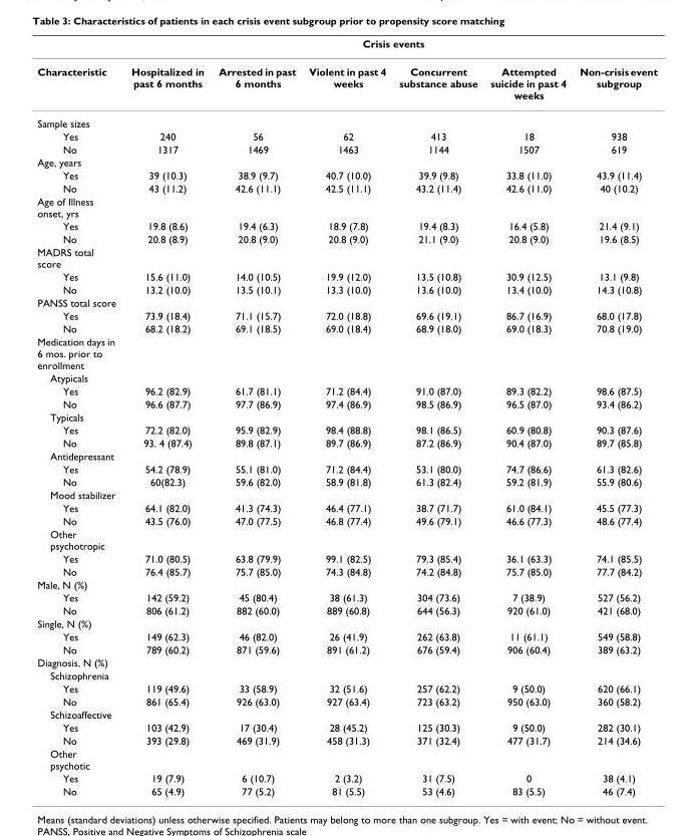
<table><thead><tr><td rowspan="2">Characteristic</td><td colspan="6">Crisis events</td></tr><tr><td>Hospitalized in past 6 months</td><td>Arrested in past 6 months</td><td>Violent in past 4 weeks</td><td>Concurrent substance abuse</td><td>Attempted suicide in past 4 weeks</td><td>Non-crisis event subgroup</td></tr></thead><tbody><tr><td colspan="7">Sample sizes</td></tr><tr><td>Yes</td><td>240</td><td>56</td><td>62</td><td>413</td><td>18</td><td>938</td></tr><tr><td>No</td><td>1317</td><td>1469</td><td>1463</td><td>1144</td><td>1507</td><td>619</td></tr><tr><td colspan="7">Age, years</td></tr><tr><td>Yes</td><td>39 (10.3)</td><td>38.9 (9.7)</td><td>40.7 (10.0)</td><td>39.9 (9.8)</td><td>33.8 (11.0)</td><td>43.9 (11.4)</td></tr><tr><td>No</td><td>43 (11.2)</td><td>42.6 (11.1)</td><td>42.5 (11.1)</td><td>43.2 (11.4)</td><td>42.6 (11.0)</td><td>40 (10.2)</td></tr><tr><td colspan="7">Age of Illness onset, yrs</td></tr><tr><td>Yes</td><td>19.8 (8.6)</td><td>19.4 (6.3)</td><td>18.9 (7.8)</td><td>19.4 (8.3)</td><td>16.4 (5.8)</td><td>21.4 (9.1)</td></tr><tr><td>No</td><td>20.8 (8.9)</td><td>20.8 (9.0)</td><td>20.8 (9.0)</td><td>21.1 (9.0)</td><td>20.8 (9.0)</td><td>19.6 (8.5)</td></tr><tr><td colspan="7">MADRS total score</td></tr><tr><td>Yes</td><td>15.6 (11.0)</td><td>14.0 (10.5)</td><td>19.9 (12.0)</td><td>13.5 (10.8)</td><td>30.9 (12.5)</td><td>13.1 (9.8)</td></tr><tr><td>No</td><td>13.2 (10.0)</td><td>13.5 (10.1)</td><td>13.3 (10.0)</td><td>13.6 (10.0)</td><td>13.4 (10.0)</td><td>14.3 (10.8)</td></tr><tr><td colspan="7">PANSS total score</td></tr><tr><td>Yes</td><td>73.9 (18.4)</td><td>71.1 (15.7)</td><td>72.0 (18.8)</td><td>69.6 (19.1)</td><td>86.7 (16.9)</td><td>68.0 (17.8)</td></tr><tr><td>No</td><td>68.2 (18.2)</td><td>69.1 (18.5)</td><td>69.0 (18.4)</td><td>68.9 (18.0)</td><td>69.0 (18.3)</td><td>70.8 (19.0)</td></tr><tr><td colspan="7">Medication days in 6 mos. prior to enrollment</td></tr><tr><td colspan="7">Atypicals</td></tr><tr><td>Yes</td><td>96.2 (82.9)</td><td>61.7 (81.1)</td><td>71.2 (84.4)</td><td>91.0 (87.0)</td><td>89.3 (82.2)</td><td>98.6 (87.5)</td></tr><tr><td>No</td><td>96.6 (87.7)</td><td>97.7 (86.9)</td><td>97.4 (86.9)</td><td>98.5 (86.9)</td><td>96.5 (87.0)</td><td>93.4 (86.2)</td></tr><tr><td colspan="7">Typicals</td></tr><tr><td>Yes</td><td>72.2 (82.0)</td><td>95.9 (82.9)</td><td>98.4 (88.8)</td><td>98.1 (86.5)</td><td>60.9 (80.8)</td><td>90.3 (87.6)</td></tr><tr><td>No</td><td>93. 4 (87.4)</td><td>89.8 (87.1)</td><td>89.7 (86.9)</td><td>87.2 (86.9)</td><td>90.4 (87.0)</td><td>89.7 (85.8)</td></tr><tr><td colspan="7">Antidepressant</td></tr><tr><td>Yes</td><td>54.2 (78.9)</td><td>55.1 (81.0)</td><td>71.2 (84.4)</td><td>53.1 (80.0)</td><td>74.7 (86.6)</td><td>61.3 (82.6)</td></tr><tr><td>No</td><td>60(82.3)</td><td>59.6 (82.0)</td><td>58.9 (81.8)</td><td>61.3 (82.4)</td><td>59.2 (81.9)</td><td>55.9 (80.6)</td></tr><tr><td colspan="7">Mood stabilizer</td></tr><tr><td>Yes</td><td>64.1 (82.0)</td><td>41.3 (74.3)</td><td>46.4 (77.1)</td><td>38.7 (71.7)</td><td>61.0 (84.1)</td><td>45.5 (77.3)</td></tr><tr><td>No</td><td>43.5 (76.0)</td><td>47.0 (77.5)</td><td>46.8 (77.4)</td><td>49.6 (79.1)</td><td>46.6 (77.3)</td><td>48.6 (77.4)</td></tr><tr><td colspan="7">Other psychotropic</td></tr><tr><td>Yes</td><td>71.0 (80.5)</td><td>63.8 (79.9)</td><td>99.1 (82.5)</td><td>79.3 (85.4)</td><td>36.1 (63.3)</td><td>74.1 (85.5)</td></tr><tr><td>No</td><td>76.4 (85.7)</td><td>75.7 (85.0)</td><td>74.3 (84.8)</td><td>74.2 (84.8)</td><td>75.7 (85.0)</td><td>77.7 (84.2)</td></tr><tr><td colspan="7">Male, N (%)</td></tr><tr><td>Yes</td><td>142 (59.2)</td><td>45 (80.4)</td><td>38 (61.3)</td><td>304 (73.6)</td><td>7 (38.9)</td><td>527 (56.2)</td></tr><tr><td>No</td><td>806 (61.2)</td><td>882 (60.0)</td><td>889 (60.8)</td><td>644 (56.3)</td><td>920 (61.0)</td><td>421 (68.0)</td></tr><tr><td colspan="7">Single, N (%)</td></tr><tr><td>Yes</td><td>149 (62.3)</td><td>46 (82.0)</td><td>26 (41.9)</td><td>262 (63.8)</td><td>11 (61.1)</td><td>549 (58.8)</td></tr><tr><td>No</td><td>789 (60.2)</td><td>871 (59.6)</td><td>891 (61.2)</td><td>676 (59.4)</td><td>906 (60.4)</td><td>389 (63.2)</td></tr><tr><td colspan="7">Diagnosis, N (%)</td></tr><tr><td colspan="7">Schizophrenia</td></tr><tr><td>Yes</td><td>119 (49.6)</td><td>33 (58.9)</td><td>32 (51.6)</td><td>257 (62.2)</td><td>9 (50.0)</td><td>620 (66.1)</td></tr><tr><td>No</td><td>861 (65.4)</td><td>926 (63.0)</td><td>927 (63.4)</td><td>723 (63.2)</td><td>950 (63.0)</td><td>360 (58.2)</td></tr><tr><td colspan="7">Schizoaffective</td></tr><tr><td>Yes</td><td>103 (42.9)</td><td>17 (30.4)</td><td>28 (45.2)</td><td>125 (30.3)</td><td>9 (50.0)</td><td>282 (30.1)</td></tr><tr><td>No</td><td>393 (29.8)</td><td>469 (31.9)</td><td>458 (31.3)</td><td>371 (32.4)</td><td>477 (31.7)</td><td>214 (34.6)</td></tr><tr><td colspan="7">Other psychotic</td></tr><tr><td>Yes</td><td>19 (7.9)</td><td>6 (10.7)</td><td>2 (3.2)</td><td>31 (7.5)</td><td>0</td><td>38 (4.1)</td></tr><tr><td>No</td><td>65 (4.9)</td><td>77 (5.2)</td><td>81 (5.5)</td><td>53 (4.6)</td><td>83 (5.5)</td><td>46 (7.4)</td></tr></tbody></table>